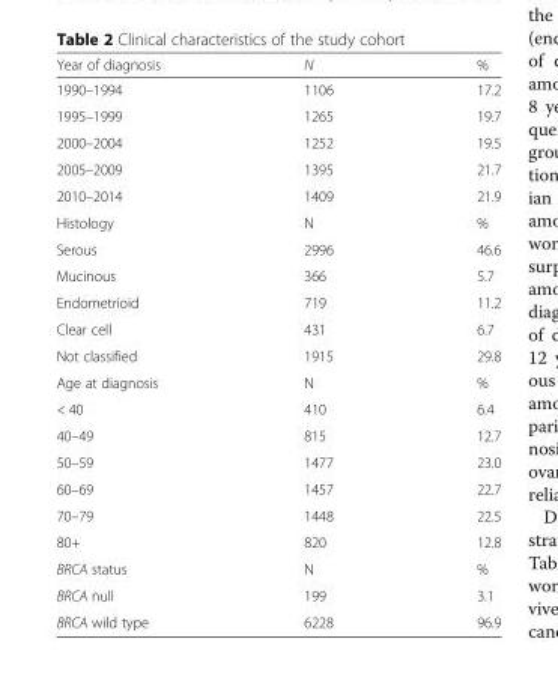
<table><thead><tr><td>Year of diagnosis</td><td>N</td><td>%</td></tr></thead><tbody><tr><td>1990–1994</td><td>1106</td><td>17.2</td></tr><tr><td>1995–1999</td><td>1265</td><td>19.7</td></tr><tr><td>2000–2004</td><td>1252</td><td>19.5</td></tr><tr><td>2005–2009</td><td>1395</td><td>21.7</td></tr><tr><td>2010–2014</td><td>1409</td><td>21.9</td></tr><tr><td>Histology</td><td>N</td><td>%</td></tr><tr><td>Serous</td><td>2996</td><td>46.6</td></tr><tr><td>Mucinous</td><td>366</td><td>5.7</td></tr><tr><td>Endometrioid</td><td>719</td><td>11.2</td></tr><tr><td>Clear cell</td><td>431</td><td>6.7</td></tr><tr><td>Not classified</td><td>1915</td><td>29.8</td></tr><tr><td>Age at diagnosis</td><td>N</td><td>%</td></tr><tr><td>&lt; 40</td><td>410</td><td>6.4</td></tr><tr><td>40–49</td><td>815</td><td>12.7</td></tr><tr><td>50–59</td><td>1477</td><td>23.0</td></tr><tr><td>60–69</td><td>1457</td><td>22.7</td></tr><tr><td>70–79</td><td>1448</td><td>22.5</td></tr><tr><td>80+</td><td>820</td><td>12.8</td></tr><tr><td>BRCA status</td><td>N</td><td>%</td></tr><tr><td>BRCA null</td><td>199</td><td>3.1</td></tr><tr><td>BRCA wild type</td><td>6228</td><td>96.9</td></tr></tbody></table>